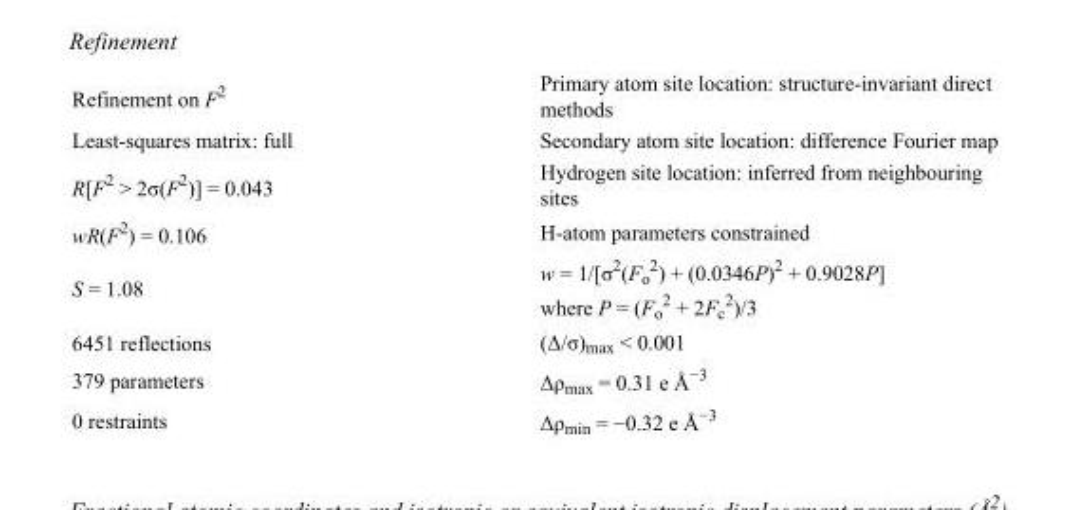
<table><tbody><tr><td>Refinement on F<sup>2</sup></td><td>Primary atom site location: structure-invariant direct methods</td></tr><tr><td>Least-squares matrix: full</td><td>Secondary atom site location: difference Fourier map</td></tr><tr><td>R[F<sup>2</sup> &gt; 2σ(F<sup>2</sup>)] = 0.043</td><td>Hydrogen site location: inferred from neighbouring sites</td></tr><tr><td>wR(F<sup>2</sup>) = 0.106</td><td>H-atom parameters constrained</td></tr><tr><td>S = 1.08</td><td>w = 1/[σ<sup>2</sup>(F<sub>o</sub> <sup>2</sup>) + (0.0346P)<sup>2</sup> + 0.9028P] where P = (F<sub>o</sub> <sup>2</sup> + 2F<sub>c</sub> <sup>2</sup>)/3</td></tr><tr><td>6451 reflections</td><td>(Δ/σ)<sub>max</sub> &lt; 0.001</td></tr><tr><td>379 parameters</td><td>Δρ<sub>max</sub> = 0.31 e Å<sup>−3</sup></td></tr><tr><td>0 restraints</td><td>Δρ<sub>min</sub> = −0.32 e Å<sup>−3</sup></td></tr></tbody></table>